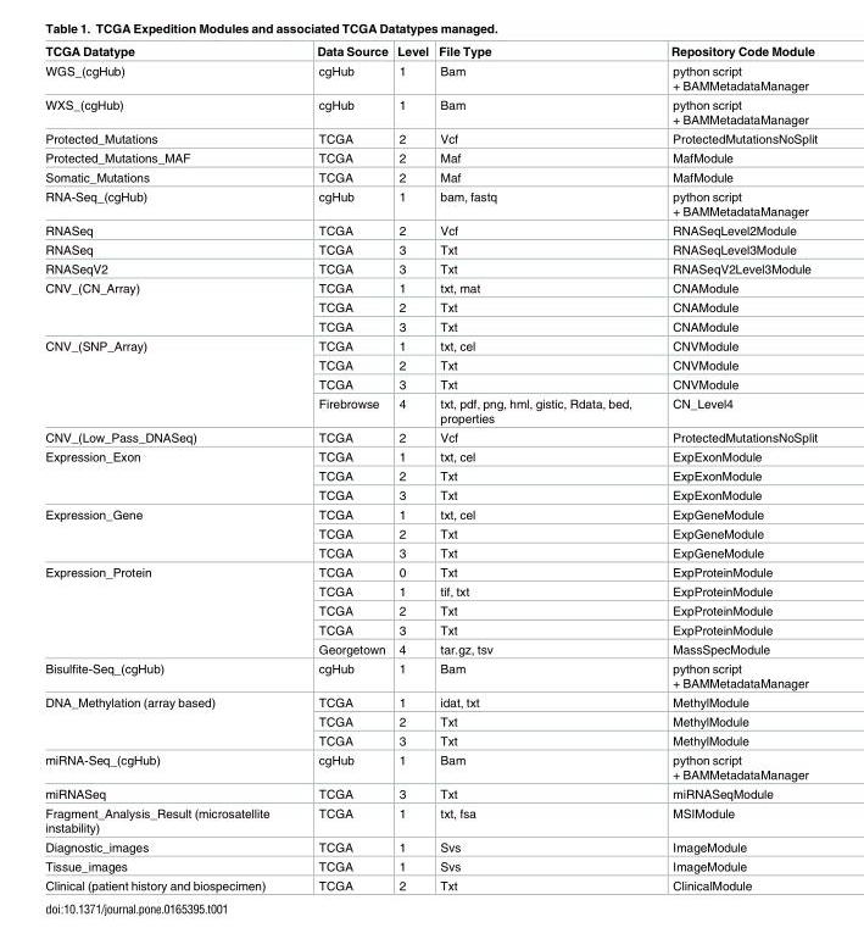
<table><thead><tr><td>TCGA Datatype</td><td>Data Source</td><td>Level</td><td>File Type</td><td>Repository Code Module</td></tr></thead><tbody><tr><td>WGS_(cgHub)</td><td>cgHub</td><td>1</td><td>Bam</td><td>python script + BAMMetadataManager</td></tr><tr><td>WXS_(cgHub)</td><td>cgHub</td><td>1</td><td>Bam</td><td>python script + BAMMetadataManager</td></tr><tr><td>Protected_Mutations</td><td>TCGA</td><td>2</td><td>Vcf</td><td>ProtectedMutationsNoSplit</td></tr><tr><td>Protected_Mutations_MAF</td><td>TCGA</td><td>2</td><td>Maf</td><td>MafModule</td></tr><tr><td>Somatic_Mutations</td><td>TCGA</td><td>2</td><td>Maf</td><td>MafModule</td></tr><tr><td>RNA-Seq_(cgHub)</td><td>cgHub</td><td>1</td><td>bam, fastq</td><td>python script + BAMMetadataManager</td></tr><tr><td>RNASeq</td><td>TCGA</td><td>2</td><td>Vcf</td><td>RNASeqLevel2Module</td></tr><tr><td>RNASeq</td><td>TCGA</td><td>3</td><td>Txt</td><td>RNASeqLevel3Module</td></tr><tr><td>RNASeqV2</td><td>TCGA</td><td>3</td><td>Txt</td><td>RNASeqV2Level3Module</td></tr><tr><td rowspan="3">CNV_(CN_Array)</td><td>TCGA</td><td>1</td><td>txt, mat</td><td>CNAModule</td></tr><tr><td>TCGA</td><td>2</td><td>Txt</td><td>CNAModule</td></tr><tr><td>TCGA</td><td>3</td><td>Txt</td><td>CNAModule</td></tr><tr><td rowspan="4">CNV_(SNP_Array)</td><td>TCGA</td><td>1</td><td>txt, cel</td><td>CNVModule</td></tr><tr><td>TCGA</td><td>2</td><td>Txt</td><td>CNVModule</td></tr><tr><td>TCGA</td><td>3</td><td>Txt</td><td>CNVModule</td></tr><tr><td>Firebrowse</td><td>4</td><td>txt, pdf, png, hml, gistic, Rdata, bed, properties</td><td>CN_Level4</td></tr><tr><td>CNV_(Low_Pass_DNASeq)</td><td>TCGA</td><td>2</td><td>Vcf</td><td>ProtectedMutationsNoSplit</td></tr><tr><td rowspan="3">Expression_Exon</td><td>TCGA</td><td>1</td><td>txt, cel</td><td>ExpExonModule</td></tr><tr><td>TCGA</td><td>2</td><td>Txt</td><td>ExpExonModule</td></tr><tr><td>TCGA</td><td>3</td><td>Txt</td><td>ExpExonModule</td></tr><tr><td rowspan="3">Expression_Gene</td><td>TCGA</td><td>1</td><td>txt, cel</td><td>ExpGeneModule</td></tr><tr><td>TCGA</td><td>2</td><td>Txt</td><td>ExpGeneModule</td></tr><tr><td>TCGA</td><td>3</td><td>Txt</td><td>ExpGeneModule</td></tr><tr><td rowspan="5">Expression_Protein</td><td>TCGA</td><td>0</td><td>Txt</td><td>ExpProteinModule</td></tr><tr><td>TCGA</td><td>1</td><td>tif, txt</td><td>ExpProteinModule</td></tr><tr><td>TCGA</td><td>2</td><td>Txt</td><td>ExpProteinModule</td></tr><tr><td>TCGA</td><td>3</td><td>Txt</td><td>ExpProteinModule</td></tr><tr><td>Georgetown</td><td>4</td><td>tar.gz, tsv</td><td>MassSpecModule</td></tr><tr><td>Bisulfite-Seq_(cgHub)</td><td>cgHub</td><td>1</td><td>Bam</td><td>python script + BAMMetadataManager</td></tr><tr><td rowspan="3">DNA_Methylation (array based)</td><td>TCGA</td><td>1</td><td>idat, txt</td><td>MethylModule</td></tr><tr><td>TCGA</td><td>2</td><td>Txt</td><td>MethylModule</td></tr><tr><td>TCGA</td><td>3</td><td>Txt</td><td>MethylModule</td></tr><tr><td>miRNA-Seq_(cgHub)</td><td>cgHub</td><td>1</td><td>Bam</td><td>python script + BAMMetadataManager</td></tr><tr><td>miRNASeq</td><td>TCGA</td><td>3</td><td>Txt</td><td>miRNASeqModule</td></tr><tr><td>Fragment_Analysis_Result (microsatellite instability)</td><td>TCGA</td><td>1</td><td>txt, fsa</td><td>MSIModule</td></tr><tr><td>Diagnostic_images</td><td>TCGA</td><td>1</td><td>Svs</td><td>ImageModule</td></tr><tr><td>Tissue_images</td><td>TCGA</td><td>1</td><td>Svs</td><td>ImageModule</td></tr><tr><td>Clinical (patient history and biospecimen)</td><td>TCGA</td><td>2</td><td>Txt</td><td>ClinicalModule</td></tr></tbody></table>